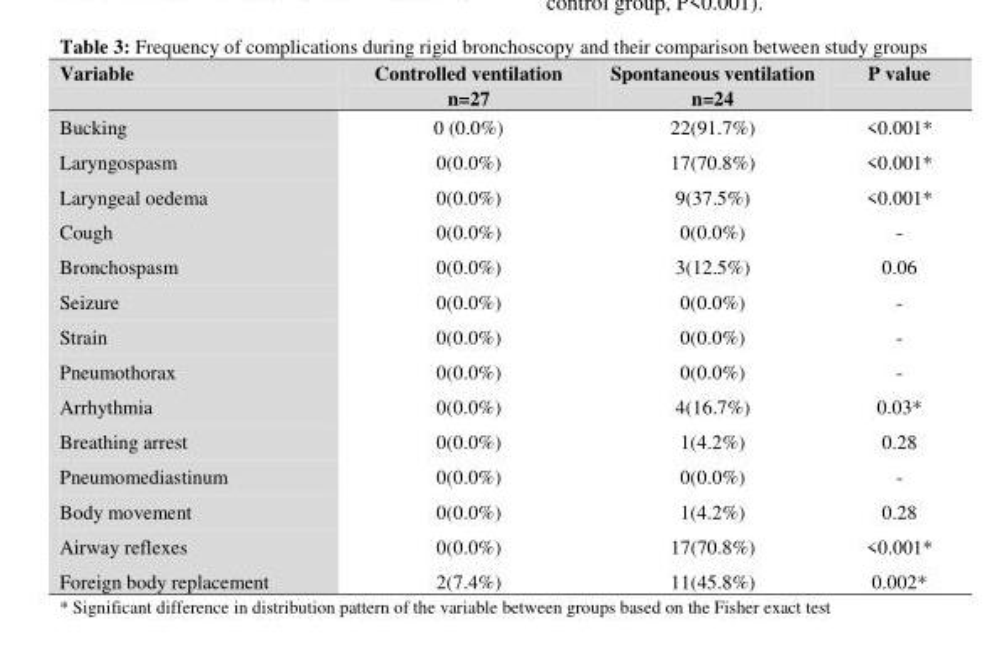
<table><thead><tr><td>Variable</td><td>Controlled ventilation n=27</td><td>Spontaneous ventilation n=24</td><td>P value</td></tr></thead><tbody><tr><td>Bucking</td><td>0 (0.0%)</td><td>22(91.7%)</td><td>&lt;0.001*</td></tr><tr><td>Laryngospasm</td><td>0(0.0%)</td><td>17(70.8%)</td><td>&lt;0.001*</td></tr><tr><td>Laryngeal oedema</td><td>0(0.0%)</td><td>9(37.5%)</td><td>&lt;0.001*</td></tr><tr><td>Cough</td><td>0(0.0%)</td><td>0(0.0%)</td><td>-</td></tr><tr><td>Bronchospasm</td><td>0(0.0%)</td><td>3(12.5%)</td><td>0.06</td></tr><tr><td>Seizure</td><td>0(0.0%)</td><td>0(0.0%)</td><td>-</td></tr><tr><td>Strain</td><td>0(0.0%)</td><td>0(0.0%)</td><td>-</td></tr><tr><td>Pneumothorax</td><td>0(0.0%)</td><td>0(0.0%)</td><td>-</td></tr><tr><td>Arrhythmia</td><td>0(0.0%)</td><td>4(16.7%)</td><td>0.03*</td></tr><tr><td>Breathing arrest</td><td>0(0.0%)</td><td>1(4.2%)</td><td>0.28</td></tr><tr><td>Pneumomediastinum</td><td>0(0.0%)</td><td>0(0.0%)</td><td>-</td></tr><tr><td>Body movement</td><td>0(0.0%)</td><td>1(4.2%)</td><td>0.28</td></tr><tr><td>Airway reflexes</td><td>0(0.0%)</td><td>17(70.8%)</td><td>&lt;0.001*</td></tr><tr><td>Foreign body replacement</td><td>2(7.4%)</td><td>11(45.8%)</td><td>0.002*</td></tr></tbody></table>